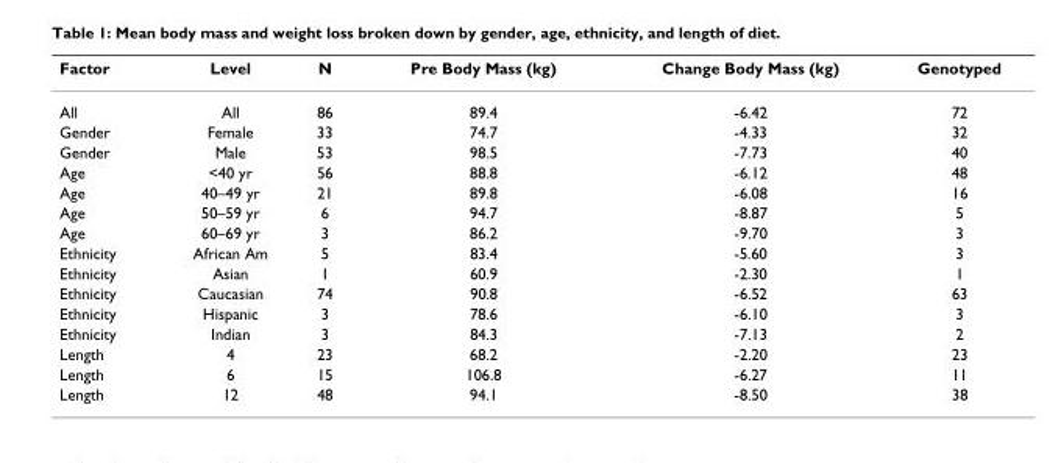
<table><thead><tr><td>Factor</td><td>Level</td><td>N</td><td>Pre Body Mass (kg)</td><td>Change Body Mass (kg)</td><td>Genotyped</td></tr></thead><tbody><tr><td>All</td><td>All</td><td>86</td><td>89.4</td><td>-6.42</td><td>72</td></tr><tr><td>Gender</td><td>Female</td><td>33</td><td>74.7</td><td>-4.33</td><td>32</td></tr><tr><td>Gender</td><td>Male</td><td>53</td><td>98.5</td><td>-7.73</td><td>40</td></tr><tr><td>Age</td><td>&lt;40 yr</td><td>56</td><td>88.8</td><td>-6.12</td><td>48</td></tr><tr><td>Age</td><td>40–49 yr</td><td>21</td><td>89.8</td><td>-6.08</td><td>16</td></tr><tr><td>Age</td><td>50–59 yr</td><td>6</td><td>94.7</td><td>-8.87</td><td>5</td></tr><tr><td>Age</td><td>60–69 yr</td><td>3</td><td>86.2</td><td>-9.70</td><td>3</td></tr><tr><td>Ethnicity</td><td>African Am</td><td>5</td><td>83.4</td><td>-5.60</td><td>3</td></tr><tr><td>Ethnicity</td><td>Asian</td><td>1</td><td>60.9</td><td>-2.30</td><td>1</td></tr><tr><td>Ethnicity</td><td>Caucasian</td><td>74</td><td>90.8</td><td>-6.52</td><td>63</td></tr><tr><td>Ethnicity</td><td>Hispanic</td><td>3</td><td>78.6</td><td>-6.10</td><td>3</td></tr><tr><td>Ethnicity</td><td>Indian</td><td>3</td><td>84.3</td><td>-7.13</td><td>2</td></tr><tr><td>Length</td><td>4</td><td>23</td><td>68.2</td><td>-2.20</td><td>23</td></tr><tr><td>Length</td><td>6</td><td>15</td><td>106.8</td><td>-6.27</td><td>11</td></tr><tr><td>Length</td><td>12</td><td>48</td><td>94.1</td><td>-8.50</td><td>38</td></tr></tbody></table>